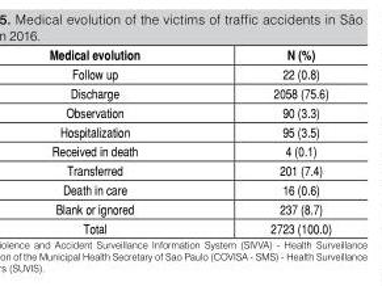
<table><thead><tr><td>Medical evolution</td><td>N (%)</td></tr></thead><tbody><tr><td>Follow up</td><td>22 (0.8)</td></tr><tr><td>Discharge</td><td>2058 (75.6)</td></tr><tr><td>Observation</td><td>90 (3.3)</td></tr><tr><td>Hospitalization</td><td>95 (3.5)</td></tr><tr><td>Received in death</td><td>4 (0.1)</td></tr><tr><td>Transferred</td><td>201 (7.4)</td></tr><tr><td>Death in care</td><td>16 (0.6)</td></tr><tr><td>Blank or ignored</td><td>237 (8.7)</td></tr><tr><td>Total</td><td>2723 (100.0)</td></tr></tbody></table>